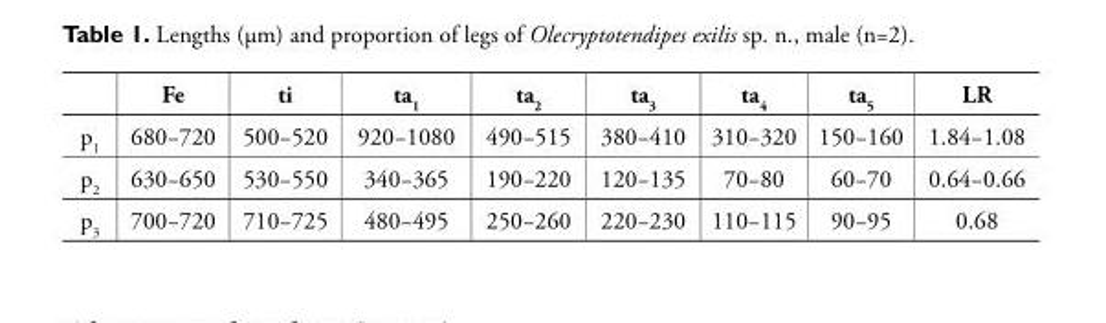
<table><thead><tr><td></td><td>Fe</td><td>ti</td><td>ta<sub>1</sub></td><td>ta<sub>2</sub></td><td>ta<sub>3</sub></td><td>ta<sub>4</sub></td><td>ta<sub>5</sub></td><td>LR</td></tr></thead><tbody><tr><td>p<sub>1</sub></td><td>680−720</td><td>500−520</td><td>920−1080</td><td>490−515</td><td>380−410</td><td>310−320</td><td>150−160</td><td>1.84−1.08</td></tr><tr><td>p<sub>2</sub></td><td>630−650</td><td>530−550</td><td>340−365</td><td>190−220</td><td>120−135</td><td>70−80</td><td>60−70</td><td>0.64−0.66</td></tr><tr><td>p<sub>3</sub></td><td>700−720</td><td>710−725</td><td>480−495</td><td>250−260</td><td>220−230</td><td>110−115</td><td>90−95</td><td>0.68</td></tr></tbody></table>